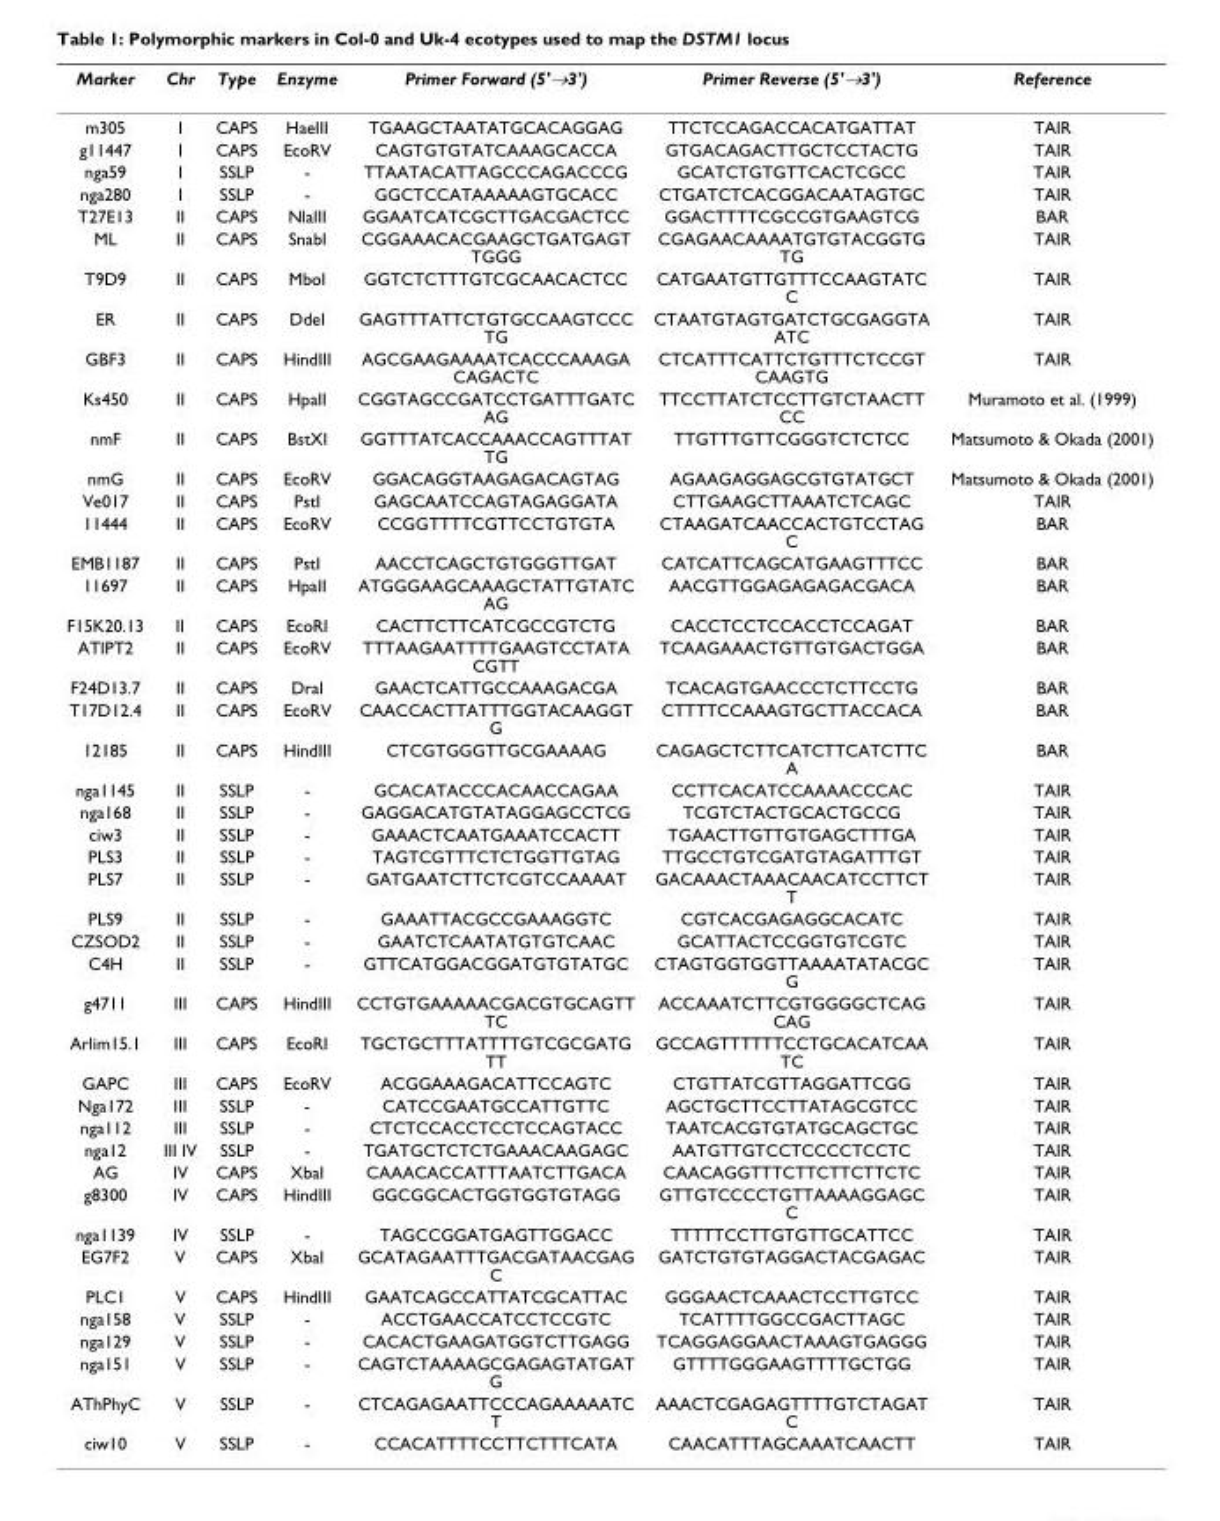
<table><thead><tr><td>Marker</td><td>Chr</td><td>Type</td><td>Enzyme</td><td>Primer Forward (5&#x27;→3&#x27;)</td><td>Primer Reverse (5&#x27;→3&#x27;)</td><td>Reference</td></tr></thead><tbody><tr><td>m305</td><td>I</td><td>CAPS</td><td>HaeIII</td><td>TGAAGCTAATATGCACAGGAG</td><td>TTCTCCAGACCACATGATTAT</td><td>TAIR</td></tr><tr><td>g11447</td><td>I</td><td>CAPS</td><td>EcoRV</td><td>CAGTGTGTATCAAAGCACCA</td><td>GTGACAGACTTGCTCCTACTG</td><td>TAIR</td></tr><tr><td>nga59</td><td>I</td><td>SSLP</td><td>-</td><td>TTAATACATTAGCCCAGACCCG</td><td>GCATCTGTGTTCACTCGCC</td><td>TAIR</td></tr><tr><td>nga280</td><td>I</td><td>SSLP</td><td>-</td><td>GGCTCCATAAAAAGTGCACC</td><td>CTGATCTCACGGACAATAGTGC</td><td>TAIR</td></tr><tr><td>T27E13</td><td>II</td><td>CAPS</td><td>NlaIII</td><td>GGAATCATCGCTTGACGACTCC</td><td>GGACTTTTCGCCGTGAAGTCG</td><td>BAR</td></tr><tr><td>ML</td><td>II</td><td>CAPS</td><td>SnabI</td><td>CGGAAACACGAAGCTGATGAGT TGGG</td><td>CGAGAACAAAATGTGTACGGTG TG</td><td>TAIR</td></tr><tr><td>T9D9</td><td>II</td><td>CAPS</td><td>MboI</td><td>GGTCTCTTTGTCGCAACACTCC</td><td>CATGAATGTTGTTTCCAAGTATC C</td><td>TAIR</td></tr><tr><td>ER</td><td>II</td><td>CAPS</td><td>DdeI</td><td>GAGTTTATTCTGTGCCAAGTCCC TG</td><td>CTAATGTAGTGATCTGCGAGGTA ATC</td><td>TAIR</td></tr><tr><td>GBF3</td><td>II</td><td>CAPS</td><td>HindIII</td><td>AGCGAAGAAAATCACCCAAAGA CAGACTC</td><td>CTCATTTCATTCTGTTTCTCCGT CAAGTG</td><td>TAIR</td></tr><tr><td>Ks450</td><td>II</td><td>CAPS</td><td>HpaII</td><td>CGGTAGCCGATCCTGATTTGATC AG</td><td>TTCCTTATCTCCTTGTCTAACTT CC</td><td>Muramoto et al. (1999)</td></tr><tr><td>nmF</td><td>II</td><td>CAPS</td><td>BstXI</td><td>GGTTTATCACCAAACCAGTTTAT TG</td><td>TTGTTTGTTCGGGTCTCTCC</td><td>Matsumoto &amp; Okada (2001)</td></tr><tr><td>nmG</td><td>II</td><td>CAPS</td><td>EcoRV</td><td>GGACAGGTAAGAGACAGTAG</td><td>AGAAGAGGAGCGTGTATGCT</td><td>Matsumoto &amp; Okada (2001)</td></tr><tr><td>Ve017</td><td>II</td><td>CAPS</td><td>PstI</td><td>GAGCAATCCAGTAGAGGATA</td><td>CTTGAAGCTTAAATCTCAGC</td><td>TAIR</td></tr><tr><td>11444</td><td>II</td><td>CAPS</td><td>EcoRV</td><td>CCGGTTTTCGTTCCTGTGTA</td><td>CTAAGATCAACCACTGTCCTAG C</td><td>BAR</td></tr><tr><td>EMB1187</td><td>II</td><td>CAPS</td><td>PstI</td><td>AACCTCAGCTGTGGGTTGAT</td><td>CATCATTCAGCATGAAGTTTCC</td><td>BAR</td></tr><tr><td>11697</td><td>II</td><td>CAPS</td><td>HpaII</td><td>ATGGGAAGCAAAGCTATTGTATC AG</td><td>AACGTTGGAGAGAGACGACA</td><td>BAR</td></tr><tr><td>F15K20.13</td><td>II</td><td>CAPS</td><td>EcoRI</td><td>CACTTCTTCATCGCCGTCTG</td><td>CACCTCCTCCACCTCCAGAT</td><td>BAR</td></tr><tr><td>ATIPT2</td><td>II</td><td>CAPS</td><td>EcoRV</td><td>TTTAAGAATTTTGAAGTCCTATA CGTT</td><td>TCAAGAAACTGTTGTGACTGGA</td><td>BAR</td></tr><tr><td>F24D13.7</td><td>II</td><td>CAPS</td><td>DraI</td><td>GAACTCATTGCCAAAGACGA</td><td>TCACAGTGAACCCTCTTCCTG</td><td>BAR</td></tr><tr><td>T17D12.4</td><td>II</td><td>CAPS</td><td>EcoRV</td><td>CAACCACTTATTTGGTACAAGGT G</td><td>CTTTTCCAAAGTGCTTACCACA</td><td>BAR</td></tr><tr><td>12185</td><td>II</td><td>CAPS</td><td>HindIII</td><td>CTCGTGGGTTGCGAAAAG</td><td>CAGAGCTCTTCATCTTCATCTTC A</td><td>BAR</td></tr><tr><td>nga1145</td><td>II</td><td>SSLP</td><td>-</td><td>GCACATACCCACAACCAGAA</td><td>CCTTCACATCCAAAACCCAC</td><td>TAIR</td></tr><tr><td>nga168</td><td>II</td><td>SSLP</td><td>-</td><td>GAGGACATGTATAGGAGCCTCG</td><td>TCGTCTACTGCACTGCCG</td><td>TAIR</td></tr><tr><td>ciw3</td><td>II</td><td>SSLP</td><td>-</td><td>GAAACTCAATGAAATCCACTT</td><td>TGAACTTGTTGTGAGCTTTGA</td><td>TAIR</td></tr><tr><td>PLS3</td><td>II</td><td>SSLP</td><td>-</td><td>TAGTCGTTTCTCTGGTTGTAG</td><td>TTGCCTGTCGATGTAGATTTGT</td><td>TAIR</td></tr><tr><td>PLS7</td><td>II</td><td>SSLP</td><td>-</td><td>GATGAATCTTCTCGTCCAAAAT</td><td>GACAAACTAAACAACATCCTTCT T</td><td>TAIR</td></tr><tr><td>PLS9</td><td>II</td><td>SSLP</td><td>-</td><td>GAAATTACGCCGAAAGGTC</td><td>CGTCACGAGAGGCACATC</td><td>TAIR</td></tr><tr><td>CZSOD2</td><td>II</td><td>SSLP</td><td>-</td><td>GAATCTCAATATGTGTCAAC</td><td>GCATTACTCCGGTGTCGTC</td><td>TAIR</td></tr><tr><td>C4H</td><td>II</td><td>SSLP</td><td>-</td><td>GTTCATGGACGGATGTGTATGC</td><td>CTAGTGGTGGTTAAAATATACGC G</td><td>TAIR</td></tr><tr><td>g4711</td><td>III</td><td>CAPS</td><td>HindIII</td><td>CCTGTGAAAAACGACGTGCAGTT TC</td><td>ACCAAATCTTCGTGGGGCTCAG CAG</td><td>TAIR</td></tr><tr><td>Arlim15.1</td><td>III</td><td>CAPS</td><td>EcoRI</td><td>TGCTGCTTTATTTTGTCGCGATG TT</td><td>GCCAGTTTTTTCCTGCACATCAA TC</td><td>TAIR</td></tr><tr><td>GAPC</td><td>III</td><td>CAPS</td><td>EcoRV</td><td>ACGGAAAGACATTCCAGTC</td><td>CTGTTATCGTTAGGATTCGG</td><td>TAIR</td></tr><tr><td>Nga172</td><td>III</td><td>SSLP</td><td>-</td><td>CATCCGAATGCCATTGTTC</td><td>AGCTGCTTCCTTATAGCGTCC</td><td>TAIR</td></tr><tr><td>nga112</td><td>III</td><td>SSLP</td><td>-</td><td>CTCTCCACCTCCTCCAGTACC</td><td>TAATCACGTGTATGCAGCTGC</td><td>TAIR</td></tr><tr><td>nga12</td><td>III IV</td><td>SSLP</td><td>-</td><td>TGATGCTCTCTGAAACAAGAGC</td><td>AATGTTGTCCTCCCCTCCTC</td><td>TAIR</td></tr><tr><td>AG</td><td>IV</td><td>CAPS</td><td>XbaI</td><td>CAAACACCATTTAATCTTGACA</td><td>CAACAGGTTTCTTCTTCTTCTC</td><td>TAIR</td></tr><tr><td>g8300</td><td>IV</td><td>CAPS</td><td>HindIII</td><td>GGCGGCACTGGTGGTGTAGG</td><td>GTTGTCCCCTGTTAAAAGGAGC C</td><td>TAIR</td></tr><tr><td>nga1139</td><td>IV</td><td>SSLP</td><td>-</td><td>TAGCCGGATGAGTTGGACC</td><td>TTTTTCCTTGTGTTGCATTCC</td><td>TAIR</td></tr><tr><td>EG7F2</td><td>V</td><td>CAPS</td><td>XbaI</td><td>GCATAGAATTTGACGATAACGAG C</td><td>GATCTGTGTAGGACTACGAGAC</td><td>TAIR</td></tr><tr><td>PLC1</td><td>V</td><td>CAPS</td><td>HindIII</td><td>GAATCAGCCATTATCGCATTAC</td><td>GGGAACTCAAACTCCTTGTCC</td><td>TAIR</td></tr><tr><td>nga158</td><td>V</td><td>SSLP</td><td>-</td><td>ACCTGAACCATCCTCCGTC</td><td>TCATTTTGGCCGACTTAGC</td><td>TAIR</td></tr><tr><td>nga129</td><td>V</td><td>SSLP</td><td>-</td><td>CACACTGAAGATGGTCTTGAGG</td><td>TCAGGAGGAACTAAAGTGAGGG</td><td>TAIR</td></tr><tr><td>nga151</td><td>V</td><td>SSLP</td><td>-</td><td>CAGTCTAAAAGCGAGAGTATGAT G</td><td>GTTTTGGGAAGTTTTGCTGG</td><td>TAIR</td></tr><tr><td>AThPhyC</td><td>V</td><td>SSLP</td><td>-</td><td>CTCAGAGAATTCCCAGAAAAATC T</td><td>AAACTCGAGAGTTTTGTCTAGAT C</td><td>TAIR</td></tr><tr><td>ciw10</td><td>V</td><td>SSLP</td><td>-</td><td>CCACATTTTCCTTCTTTCATA</td><td>CAACATTTAGCAAATCAACTT</td><td>TAIR</td></tr></tbody></table>